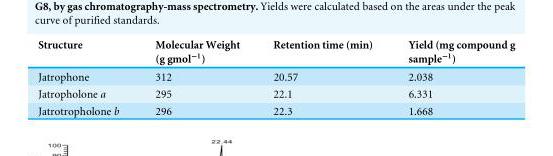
<table><thead><tr><td>Structure</td><td>Molecular Weight (g gmol<sup>−1</sup>)</td><td>Retention time (min)</td><td>Yield (mg compound g sample<sup>−1</sup>)</td></tr></thead><tbody><tr><td>Jatrophone</td><td>312</td><td>20.57</td><td>2.038</td></tr><tr><td>Jatropholone a</td><td>295</td><td>22.1</td><td>6.331</td></tr><tr><td>Jatrotropholone b</td><td>296</td><td>22.3</td><td>1.668</td></tr></tbody></table>